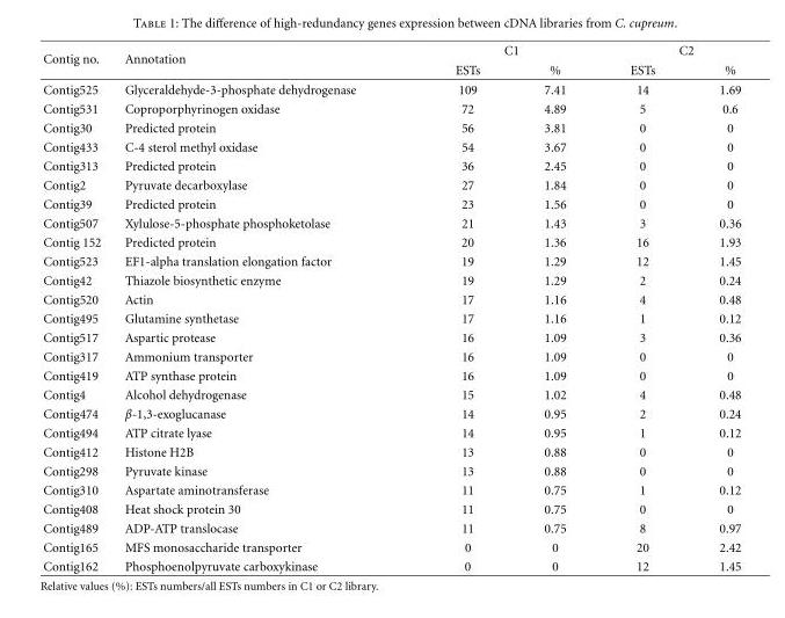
<table><thead><tr><td rowspan="2">Contig no.</td><td rowspan="2">Annotation</td><td colspan="2">C1</td><td colspan="2">C2</td></tr><tr><td>ESTs</td><td>%</td><td>ESTs</td><td>%</td></tr></thead><tbody><tr><td>Contig525</td><td>Glyceraldehyde-3-phosphate dehydrogenase</td><td>109</td><td>7.41</td><td>14</td><td>1.69</td></tr><tr><td>Contig531</td><td>Coproporphyrinogen oxidase</td><td>72</td><td>4.89</td><td>5</td><td>0.6</td></tr><tr><td>Contig30</td><td>Predicted protein</td><td>56</td><td>3.81</td><td>0</td><td>0</td></tr><tr><td>Contig433</td><td>C-4 sterol methyl oxidase</td><td>54</td><td>3.67</td><td>0</td><td>0</td></tr><tr><td>Contig313</td><td>Predicted protein</td><td>36</td><td>2.45</td><td>0</td><td>0</td></tr><tr><td>Contig2</td><td>Pyruvate decarboxylase</td><td>27</td><td>1.84</td><td>0</td><td>0</td></tr><tr><td>Contig39</td><td>Predicted protein</td><td>23</td><td>1.56</td><td>0</td><td>0</td></tr><tr><td>Contig507</td><td>Xylulose-5-phosphate phosphoketolase</td><td>21</td><td>1.43</td><td>3</td><td>0.36</td></tr><tr><td>Contig 152</td><td>Predicted protein</td><td>20</td><td>1.36</td><td>16</td><td>1.93</td></tr><tr><td>Contig523</td><td>EF1-alpha translation elongation factor</td><td>19</td><td>1.29</td><td>12</td><td>1.45</td></tr><tr><td>Contig42</td><td>Thiazole biosynthetic enzyme</td><td>19</td><td>1.29</td><td>2</td><td>0.24</td></tr><tr><td>Contig520</td><td>Actin</td><td>17</td><td>1.16</td><td>4</td><td>0.48</td></tr><tr><td>Contig495</td><td>Glutamine synthetase</td><td>17</td><td>1.16</td><td>1</td><td>0.12</td></tr><tr><td>Contig517</td><td>Aspartic protease</td><td>16</td><td>1.09</td><td>3</td><td>0.36</td></tr><tr><td>Contig317</td><td>Ammonium transporter</td><td>16</td><td>1.09</td><td>0</td><td>0</td></tr><tr><td>Contig419</td><td>ATP synthase protein</td><td>16</td><td>1.09</td><td>0</td><td>0</td></tr><tr><td>Contig4</td><td>Alcohol dehydrogenase</td><td>15</td><td>1.02</td><td>4</td><td>0.48</td></tr><tr><td>Contig474</td><td>β-1,3-exoglucanase</td><td>14</td><td>0.95</td><td>2</td><td>0.24</td></tr><tr><td>Contig494</td><td>ATP citrate lyase</td><td>14</td><td>0.95</td><td>1</td><td>0.12</td></tr><tr><td>Contig412</td><td>Histone H2B</td><td>13</td><td>0.88</td><td>0</td><td>0</td></tr><tr><td>Contig298</td><td>Pyruvate kinase</td><td>13</td><td>0.88</td><td>0</td><td>0</td></tr><tr><td>Contig310</td><td>Aspartate aminotransferase</td><td>11</td><td>0.75</td><td>1</td><td>0.12</td></tr><tr><td>Contig408</td><td>Heat shock protein 30</td><td>11</td><td>0.75</td><td>0</td><td>0</td></tr><tr><td>Contig489</td><td>ADP-ATP translocase</td><td>11</td><td>0.75</td><td>8</td><td>0.97</td></tr><tr><td>Contig165</td><td>MFS monosaccharide transporter</td><td>0</td><td>0</td><td>20</td><td>2.42</td></tr><tr><td>Contig162</td><td>Phosphoenolpyruvate carboxykinase</td><td>0</td><td>0</td><td>12</td><td>1.45</td></tr></tbody></table>